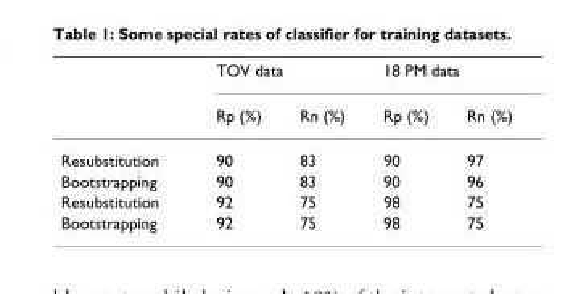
<table><thead><tr><td rowspan="2"></td><td colspan="2">TOV data</td><td colspan="2">18 PM data</td></tr><tr><td>Rp (%)</td><td>Rn (%)</td><td>Rp (%)</td><td>Rn (%)</td></tr></thead><tbody><tr><td>Resubstitution</td><td>90</td><td>83</td><td>90</td><td>97</td></tr><tr><td>Bootstrapping</td><td>90</td><td>83</td><td>90</td><td>96</td></tr><tr><td>Resubstitution</td><td>92</td><td>75</td><td>98</td><td>75</td></tr><tr><td>Bootstrapping</td><td>92</td><td>75</td><td>98</td><td>75</td></tr></tbody></table>